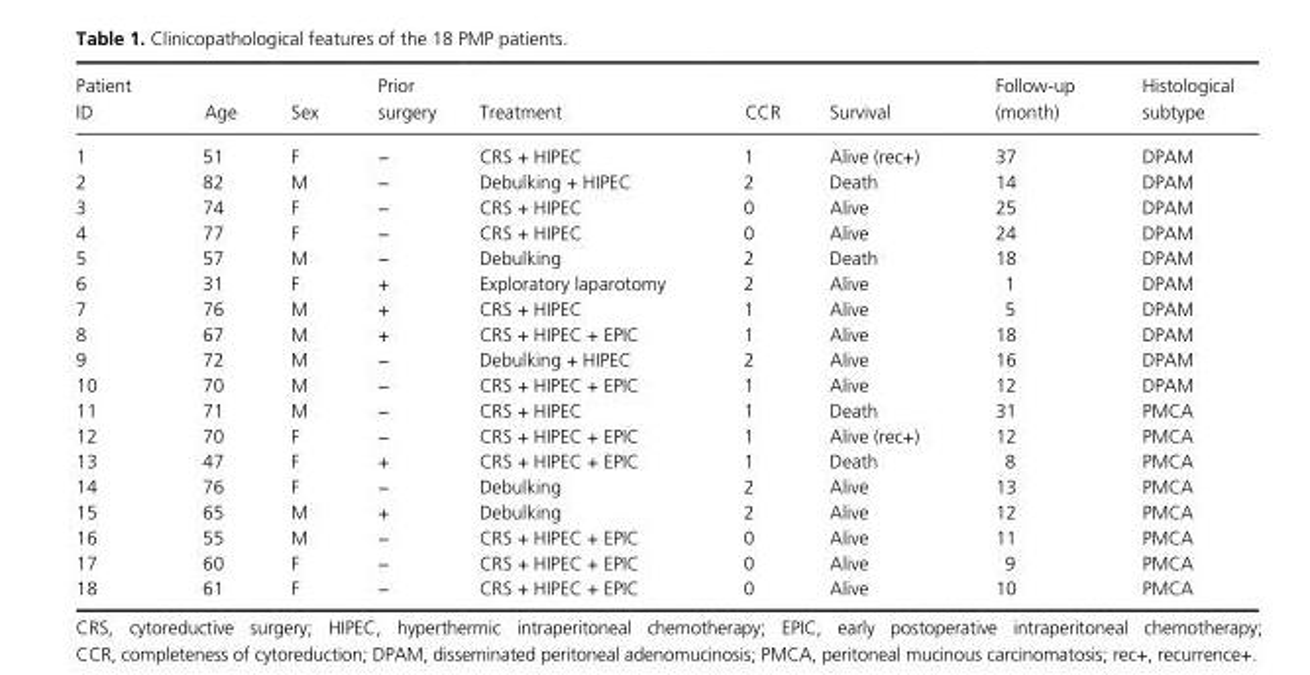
<table><thead><tr><td>Patient ID</td><td>Age</td><td>Sex</td><td>Prior surgery</td><td>Treatment</td><td>CCR</td><td>Survival</td><td>Follow- up (month)</td><td>Histological subtype</td></tr></thead><tbody><tr><td>1</td><td>51</td><td>F</td><td>−</td><td>CRS + HIPEC</td><td>1</td><td>Alive (rec+)</td><td>37</td><td>DPAM</td></tr><tr><td>2</td><td>82</td><td>M</td><td>−</td><td>Debulking + HIPEC</td><td>2</td><td>Death</td><td>14</td><td>DPAM</td></tr><tr><td>3</td><td>74</td><td>F</td><td>−</td><td>CRS + HIPEC</td><td>0</td><td>Alive</td><td>25</td><td>DPAM</td></tr><tr><td>4</td><td>77</td><td>F</td><td>−</td><td>CRS + HIPEC</td><td>0</td><td>Alive</td><td>24</td><td>DPAM</td></tr><tr><td>5</td><td>57</td><td>M</td><td>−</td><td>Debulking</td><td>2</td><td>Death</td><td>18</td><td>DPAM</td></tr><tr><td>6</td><td>31</td><td>F</td><td>+</td><td>Exploratory laparotomy</td><td>2</td><td>Alive</td><td>1</td><td>DPAM</td></tr><tr><td>7</td><td>76</td><td>M</td><td>+</td><td>CRS + HIPEC</td><td>1</td><td>Alive</td><td>5</td><td>DPAM</td></tr><tr><td>8</td><td>67</td><td>M</td><td>+</td><td>CRS + HIPEC + EPIC</td><td>1</td><td>Alive</td><td>18</td><td>DPAM</td></tr><tr><td>9</td><td>72</td><td>M</td><td>−</td><td>Debulking + HIPEC</td><td>2</td><td>Alive</td><td>16</td><td>DPAM</td></tr><tr><td>10</td><td>70</td><td>M</td><td>−</td><td>CRS + HIPEC + EPIC</td><td>1</td><td>Alive</td><td>12</td><td>DPAM</td></tr><tr><td>11</td><td>71</td><td>M</td><td>−</td><td>CRS + HIPEC</td><td>1</td><td>Death</td><td>31</td><td>PMCA</td></tr><tr><td>12</td><td>70</td><td>F</td><td>−</td><td>CRS + HIPEC + EPIC</td><td>1</td><td>Alive (rec+)</td><td>12</td><td>PMCA</td></tr><tr><td>13</td><td>47</td><td>F</td><td>+</td><td>CRS + HIPEC + EPIC</td><td>1</td><td>Death</td><td>8</td><td>PMCA</td></tr><tr><td>14</td><td>76</td><td>F</td><td>−</td><td>Debulking</td><td>2</td><td>Alive</td><td>13</td><td>PMCA</td></tr><tr><td>15</td><td>65</td><td>M</td><td>+</td><td>Debulking</td><td>2</td><td>Alive</td><td>12</td><td>PMCA</td></tr><tr><td>16</td><td>55</td><td>M</td><td>−</td><td>CRS + HIPEC + EPIC</td><td>0</td><td>Alive</td><td>11</td><td>PMCA</td></tr><tr><td>17</td><td>60</td><td>F</td><td>−</td><td>CRS + HIPEC + EPIC</td><td>0</td><td>Alive</td><td>9</td><td>PMCA</td></tr><tr><td>18</td><td>61</td><td>F</td><td>−</td><td>CRS + HIPEC + EPIC</td><td>0</td><td>Alive</td><td>10</td><td>PMCA</td></tr></tbody></table>